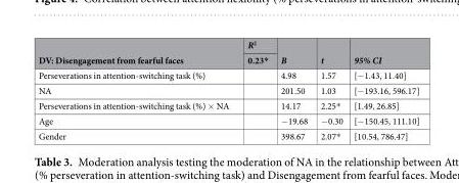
<table><thead><tr><td rowspan="2">DV: Disengagement from fearful faces</td><td rowspan="2">R<sup>2</sup> 0.23*</td><td rowspan="2">B</td><td rowspan="2">t</td><td rowspan="2">95% CI</td></tr><tr></tr></thead><tbody><tr><td>Perseverations in attention-switching task (%)</td><td></td><td>4.98</td><td>1.57</td><td>[−1.43, 11.40]</td></tr><tr><td>NA</td><td></td><td>201.50</td><td>1.03</td><td>[−193.16, 596.17]</td></tr><tr><td>Perseverations in attention-switching task (%) × NA</td><td></td><td>14.17</td><td>2.25*</td><td>[1.49, 26.85]</td></tr><tr><td>Age</td><td></td><td>−19.68</td><td>−0.30</td><td>[−150.45, 111.10]</td></tr><tr><td>Gender</td><td></td><td>398.67</td><td>2.07*</td><td>[10.54, 786.47]</td></tr></tbody></table>